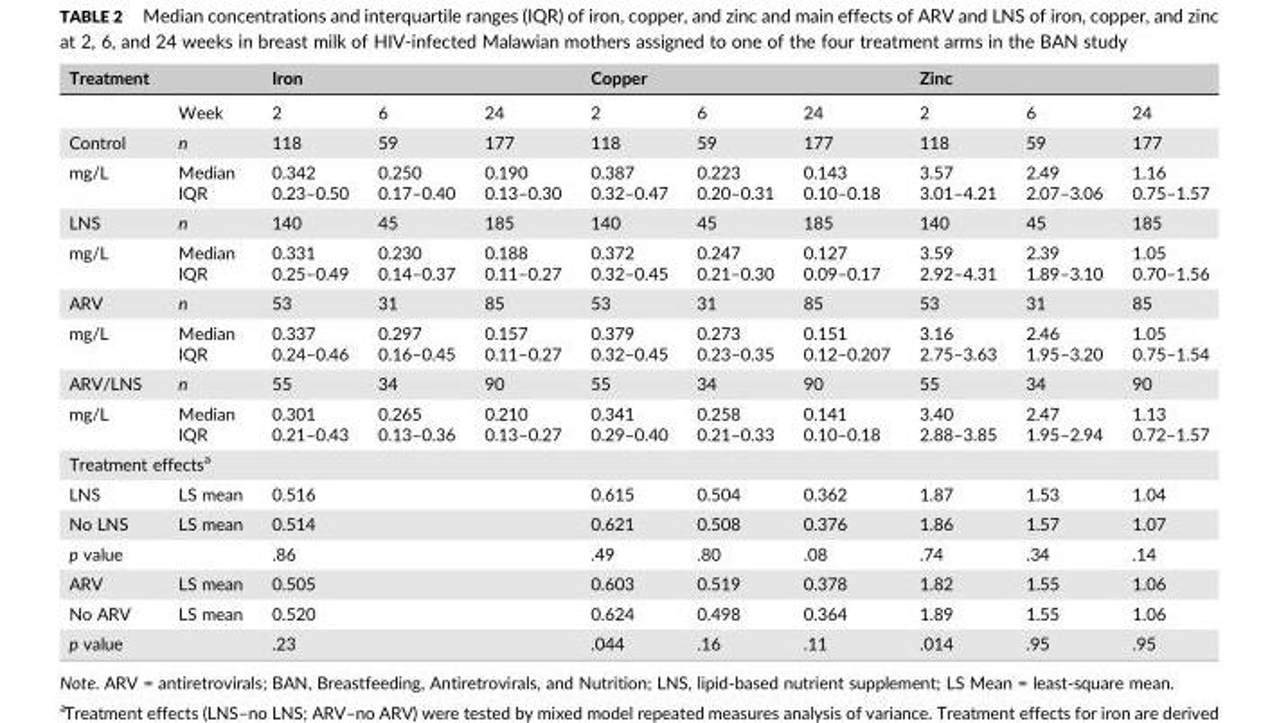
<table><thead><tr><td rowspan="2">Treatment</td><td rowspan="2">Week</td><td colspan="3">Iron</td><td colspan="3">Copper</td><td colspan="3">Zinc</td></tr><tr><td>2</td><td>6</td><td>24</td><td>2</td><td>6</td><td>24</td><td>2</td><td>6</td><td>24</td></tr></thead><tbody><tr><td>Control</td><td>n</td><td>118</td><td>59</td><td>177</td><td>118</td><td>59</td><td>177</td><td>118</td><td>59</td><td>177</td></tr><tr><td rowspan="2">mg/L</td><td>Median</td><td>0.342</td><td>0.250</td><td>0.190</td><td>0.387</td><td>0.223</td><td>0.143</td><td>3.57</td><td>2.49</td><td>1.16</td></tr><tr><td>IQR</td><td>0.23–0.50</td><td>0.17–0.40</td><td>0.13–0.30</td><td>0.32–0.47</td><td>0.20–0.31</td><td>0.10–0.18</td><td>3.01–4.21</td><td>2.07–3.06</td><td>0.75–1.57</td></tr><tr><td>LNS</td><td>n</td><td>140</td><td>45</td><td>185</td><td>140</td><td>45</td><td>185</td><td>140</td><td>45</td><td>185</td></tr><tr><td rowspan="2">mg/L</td><td>Median</td><td>0.331</td><td>0.230</td><td>0.188</td><td>0.372</td><td>0.247</td><td>0.127</td><td>3.59</td><td>2.39</td><td>1.05</td></tr><tr><td>IQR</td><td>0.25–0.49</td><td>0.14–0.37</td><td>0.11–0.27</td><td>0.32–0.45</td><td>0.21–0.30</td><td>0.09–0.17</td><td>2.92–4.31</td><td>1.89–3.10</td><td>0.70–1.56</td></tr><tr><td>ARV</td><td>n</td><td>53</td><td>31</td><td>85</td><td>53</td><td>31</td><td>85</td><td>53</td><td>31</td><td>85</td></tr><tr><td rowspan="2">mg/L</td><td>Median</td><td>0.337</td><td>0.297</td><td>0.157</td><td>0.379</td><td>0.273</td><td>0.151</td><td>3.16</td><td>2.46</td><td>1.05</td></tr><tr><td>IQR</td><td>0.24–0.46</td><td>0.16–0.45</td><td>0.11–0.27</td><td>0.32–0.45</td><td>0.23–0.35</td><td>0.12–0.207</td><td>2.75–3.63</td><td>1.95–3.20</td><td>0.75–1.54</td></tr><tr><td>ARV/LNS</td><td>n</td><td>55</td><td>34</td><td>90</td><td>55</td><td>34</td><td>90</td><td>55</td><td>34</td><td>90</td></tr><tr><td rowspan="2">mg/L</td><td>Median</td><td>0.301</td><td>0.265</td><td>0.210</td><td>0.341</td><td>0.258</td><td>0.141</td><td>3.40</td><td>2.47</td><td>1.13</td></tr><tr><td>IQR</td><td>0.21–0.43</td><td>0.13–0.36</td><td>0.13–0.27</td><td>0.29–0.40</td><td>0.21–0.33</td><td>0.10–0.18</td><td>2.88–3.85</td><td>1.95–2.94</td><td>0.72–1.57</td></tr><tr><td colspan="11">Treatment effects<sup>a</sup></td></tr><tr><td>LNS</td><td>LS mean</td><td colspan="3">0.516</td><td>0.615</td><td>0.504</td><td>0.362</td><td>1.87</td><td>1.53</td><td>1.04</td></tr><tr><td>No LNS</td><td>LS mean</td><td colspan="3">0.514</td><td>0.621</td><td>0.508</td><td>0.376</td><td>1.86</td><td>1.57</td><td>1.07</td></tr><tr><td>p value</td><td></td><td colspan="3">.86</td><td>.49</td><td>.80</td><td>.08</td><td>.74</td><td>.34</td><td>.14</td></tr><tr><td>ARV</td><td>LS mean</td><td colspan="3">0.505</td><td>0.603</td><td>0.519</td><td>0.378</td><td>1.82</td><td>1.55</td><td>1.06</td></tr><tr><td>No ARV</td><td>LS mean</td><td colspan="3">0.520</td><td>0.624</td><td>0.498</td><td>0.364</td><td>1.89</td><td>1.55</td><td>1.06</td></tr><tr><td>p value</td><td></td><td colspan="3">.23</td><td>.044</td><td>.16</td><td>.11</td><td>.014</td><td>.95</td><td>.95</td></tr></tbody></table>